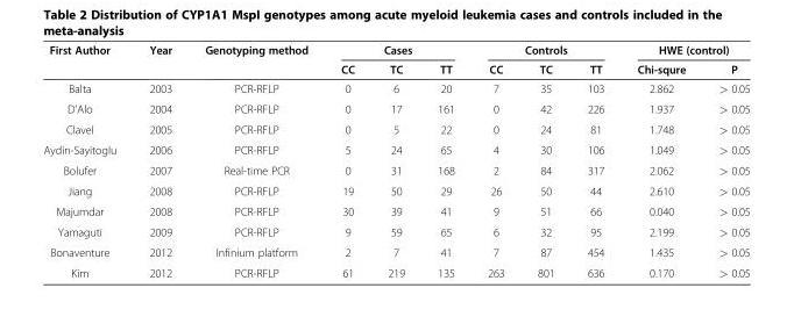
<table><thead><tr><td rowspan="2">First Author</td><td rowspan="2">Year</td><td rowspan="2">Genotyping method</td><td colspan="3">Cases</td><td colspan="3">Controls</td><td colspan="2">HWE (control)</td></tr><tr><td>CC</td><td>TC</td><td>TT</td><td>CC</td><td>TC</td><td>TT</td><td>Chi-squre</td><td>P</td></tr></thead><tbody><tr><td>Balta</td><td>2003</td><td>PCR-RFLP</td><td>0</td><td>6</td><td>20</td><td>7</td><td>35</td><td>103</td><td>2.862</td><td>&gt; 0.05</td></tr><tr><td>D&#x27;Alo</td><td>2004</td><td>PCR-RFLP</td><td>0</td><td>17</td><td>161</td><td>0</td><td>42</td><td>226</td><td>1.937</td><td>&gt; 0.05</td></tr><tr><td>Clavel</td><td>2005</td><td>PCR-RFLP</td><td>0</td><td>5</td><td>22</td><td>0</td><td>24</td><td>81</td><td>1.748</td><td>&gt; 0.05</td></tr><tr><td>Aydin-Sayitoglu</td><td>2006</td><td>PCR-RFLP</td><td>5</td><td>24</td><td>65</td><td>4</td><td>30</td><td>106</td><td>1.049</td><td>&gt; 0.05</td></tr><tr><td>Bolufer</td><td>2007</td><td>Real-time PCR</td><td>0</td><td>31</td><td>168</td><td>2</td><td>84</td><td>317</td><td>2.062</td><td>&gt; 0.05</td></tr><tr><td>Jiang</td><td>2008</td><td>PCR-RFLP</td><td>19</td><td>50</td><td>29</td><td>26</td><td>50</td><td>44</td><td>2.610</td><td>&gt; 0.05</td></tr><tr><td>Majumdar</td><td>2008</td><td>PCR-RFLP</td><td>30</td><td>39</td><td>41</td><td>9</td><td>51</td><td>66</td><td>0.040</td><td>&gt; 0.05</td></tr><tr><td>Yamaguti</td><td>2009</td><td>PCR-RFLP</td><td>9</td><td>59</td><td>65</td><td>6</td><td>32</td><td>95</td><td>2.199</td><td>&gt; 0.05</td></tr><tr><td>Bonaventure</td><td>2012</td><td>Infinium platform</td><td>2</td><td>7</td><td>41</td><td>7</td><td>87</td><td>454</td><td>1.435</td><td>&gt; 0.05</td></tr><tr><td>Kim</td><td>2012</td><td>PCR-RFLP</td><td>61</td><td>219</td><td>135</td><td>263</td><td>801</td><td>636</td><td>0.170</td><td>&gt; 0.05</td></tr></tbody></table>